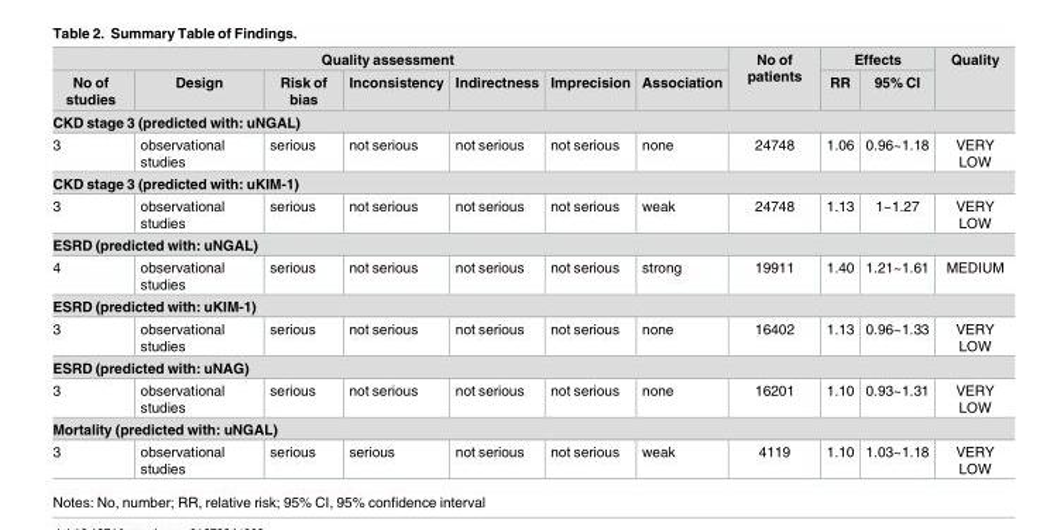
<table><thead><tr><td colspan="7">Quality assessment</td><td rowspan="2">No of patients</td><td colspan="2">Effects</td><td rowspan="2">Quality</td></tr><tr><td>No of studies</td><td>Design</td><td>Risk of bias</td><td>Inconsistency</td><td>Indirectness</td><td>Imprecision</td><td>Association</td><td>RR</td><td>95% CI</td></tr></thead><tbody><tr><td colspan="11">CKD stage 3 (predicted with: uNGAL)</td></tr><tr><td>3</td><td>observational studies</td><td>serious</td><td>not serious</td><td>not serious</td><td>not serious</td><td>none</td><td>24748</td><td>1.06</td><td>0.96~1.18</td><td>VERY LOW</td></tr><tr><td colspan="11">CKD stage 3 (predicted with: uKIM-1)</td></tr><tr><td>3</td><td>observational studies</td><td>serious</td><td>not serious</td><td>not serious</td><td>not serious</td><td>weak</td><td>24748</td><td>1.13</td><td>1~1.27</td><td>VERY LOW</td></tr><tr><td colspan="11">ESRD (predicted with: uNGAL)</td></tr><tr><td>4</td><td>observational studies</td><td>serious</td><td>not serious</td><td>not serious</td><td>not serious</td><td>strong</td><td>19911</td><td>1.40</td><td>1.21~1.61</td><td>MEDIUM</td></tr><tr><td colspan="11">ESRD (predicted with: uKIM-1)</td></tr><tr><td>3</td><td>observational studies</td><td>serious</td><td>not serious</td><td>not serious</td><td>not serious</td><td>none</td><td>16402</td><td>1.13</td><td>0.96~1.33</td><td>VERY LOW</td></tr><tr><td colspan="11">ESRD (predicted with: uNAG)</td></tr><tr><td>3</td><td>observational studies</td><td>serious</td><td>not serious</td><td>not serious</td><td>not serious</td><td>none</td><td>16201</td><td>1.10</td><td>0.93~1.31</td><td>VERY LOW</td></tr><tr><td colspan="11">Mortality (predicted with: uNGAL)</td></tr><tr><td>3</td><td>observational studies</td><td>serious</td><td>serious</td><td>not serious</td><td>not serious</td><td>weak</td><td>4119</td><td>1.10</td><td>1.03~1.18</td><td>VERY LOW</td></tr></tbody></table>